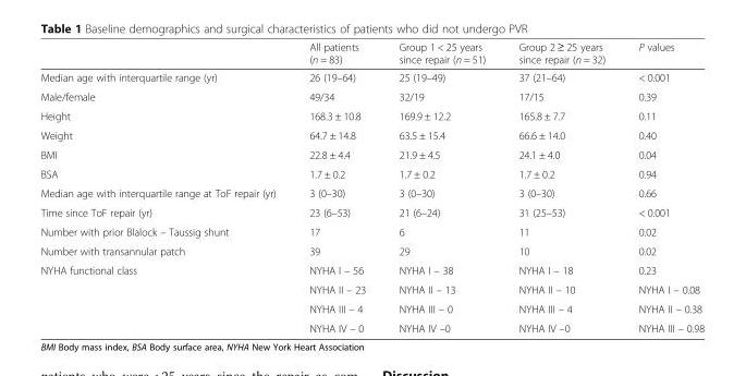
<table><thead><tr><td></td><td>All patients (n = 83)</td><td>Group 1 &lt; 25 years since repair (n = 51)</td><td>Group 2 ≥ 25 years since repair (n = 32)</td><td>P values</td></tr></thead><tbody><tr><td>Median age with interquartile range (yr)</td><td>26 (19–64)</td><td>25 (19–49)</td><td>37 (21–64)</td><td>&lt; 0.001</td></tr><tr><td>Male/female</td><td>49/34</td><td>32/19</td><td>17/15</td><td>0.39</td></tr><tr><td>Height</td><td>168.3 ± 10.8</td><td>169.9 ± 12.2</td><td>165.8 ± 7.7</td><td>0.11</td></tr><tr><td>Weight</td><td>64.7 ± 14.8</td><td>63.5 ± 15.4</td><td>66.6 ± 14.0</td><td>0.40</td></tr><tr><td>BMI</td><td>22.8 ± 4.4</td><td>21.9 ± 4.5</td><td>24.1 ± 4.0</td><td>0.04</td></tr><tr><td>BSA</td><td>1.7 ± 0.2</td><td>1.7 ± 0.2</td><td>1.7 ± 0.2</td><td>0.94</td></tr><tr><td>Median age with interquartile range at ToF repair (yr)</td><td>3 (0–30)</td><td>3 (0–30)</td><td>3 (0–30)</td><td>0.66</td></tr><tr><td>Time since ToF repair (yr)</td><td>23 (6–53)</td><td>21 (6–24)</td><td>31 (25–53)</td><td>&lt; 0.001</td></tr><tr><td>Number with prior Blalock – Taussig shunt</td><td>17</td><td>6</td><td>11</td><td>0.02</td></tr><tr><td>Number with transannular patch</td><td>39</td><td>29</td><td>10</td><td>0.02</td></tr><tr><td rowspan="4">NYHA functional class</td><td>NYHA I – 56</td><td>NYHA I – 38</td><td>NYHA I – 18</td><td>0.23</td></tr><tr><td>NYHA II – 23</td><td>NYHA II – 13</td><td>NYHA II – 10</td><td>NYHA I – 0.08</td></tr><tr><td>NYHA III – 4</td><td>NYHA III – 0</td><td>NYHA III – 4</td><td>NYHA II – 0.38</td></tr><tr><td>NYHA IV – 0</td><td>NYHA IV –0</td><td>NYHA IV –0</td><td>NYHA III – 0.98</td></tr></tbody></table>